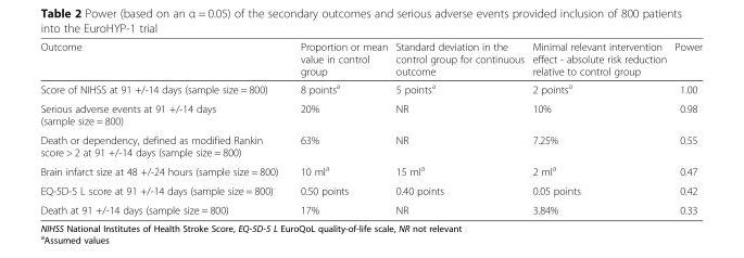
<table><thead><tr><td>Outcome</td><td>Proportion or mean value in control group</td><td>Standard deviation in the control group for continuous outcome</td><td>Minimal relevant intervention effect - absolute risk reduction relative to control group</td><td>Power</td></tr></thead><tbody><tr><td>Score of NIHSS at 91 +/-14 days (sample size = 800)</td><td>8 points<sup>a</sup></td><td>5 points<sup>a</sup></td><td>2 points<sup>a</sup></td><td>1.00</td></tr><tr><td>Serious adverse events at 91 +/-14 days (sample size = 800)</td><td>20%</td><td>NR</td><td>10%</td><td>0.98</td></tr><tr><td>Death or dependency, defined as modified Rankin score &gt; 2 at 91 +/-14 days (sample size = 800)</td><td>63%</td><td>NR</td><td>7.25%</td><td>0.55</td></tr><tr><td>Brain infarct size at 48 +/-24 hours (sample size = 800)</td><td>10 ml<sup>a</sup></td><td>15 ml<sup>a</sup></td><td>2 ml<sup>a</sup></td><td>0.47</td></tr><tr><td>EQ-5D-5 L score at 91 +/-14 days (sample size = 800)</td><td>0.50 points</td><td>0.40 points</td><td>0.05 points</td><td>0.42</td></tr><tr><td>Death at 91 +/-14 days (sample size = 800)</td><td>17%</td><td>NR</td><td>3.84%</td><td>0.33</td></tr></tbody></table>